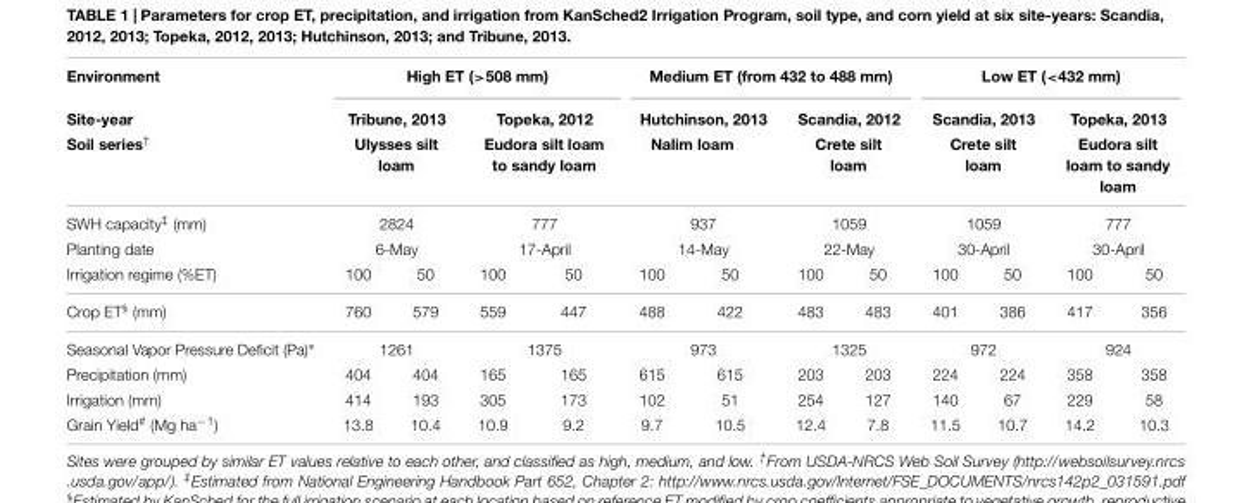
<table><thead><tr><td rowspan="6">Environment Site-year Soil series† SWH capacity‡ (mm) Planting date Irrigation regime (%ET)</td><td colspan="4">High ET (&gt;508 mm)</td><td colspan="4">Medium ET (from 432 to 488 mm)</td><td colspan="4">Low ET (&lt;432 mm)</td></tr><tr><td rowspan="4" colspan="2">Tribune, 2013 Ulysses silt loam 2824 6-May</td><td rowspan="4" colspan="2">Topeka, 2012 Eudora silt loam to sandy loam 777 17-April</td><td rowspan="4" colspan="2">Hutchinson, 2013 Nalim loam 937 14-May</td><td rowspan="4" colspan="2">Scandia, 2012 Crete silt loam 1059 22-May</td><td rowspan="4" colspan="2">Scandia, 2013 Crete silt loam 1059 30-April</td><td rowspan="4" colspan="2">Topeka, 2013 Eudora silt loam to sandy loam 777 30-April</td></tr><tr></tr><tr></tr><tr></tr><tr><td>100</td><td>50</td><td>100</td><td>50</td><td>100</td><td>50</td><td>100</td><td>50</td><td>100</td><td>50</td><td>100</td><td>50</td></tr></thead><tbody><tr><td>Crop ET<sup>§</sup> (mm)</td><td>760</td><td>579</td><td>559</td><td>447</td><td>488</td><td>422</td><td>483</td><td>483</td><td>401</td><td>386</td><td>417</td><td>356</td></tr><tr><td>Seasonal Vapor Pressure Deficit (Pa)∗</td><td colspan="2">1261</td><td colspan="2">1375</td><td colspan="2">973</td><td colspan="2">1325</td><td colspan="2">972</td><td colspan="2">924</td></tr><tr><td>Precipitation (mm)</td><td>404</td><td>404</td><td>165</td><td>165</td><td>615</td><td>615</td><td>203</td><td>203</td><td>224</td><td>224</td><td>358</td><td>358</td></tr><tr><td>Irrigation (mm)</td><td>414</td><td>193</td><td>305</td><td>173</td><td>102</td><td>51</td><td>254</td><td>127</td><td>140</td><td>67</td><td>229</td><td>58</td></tr><tr><td>Grain Yield<sup>#</sup> (Mg ha<sup>−1</sup>)</td><td>13.8</td><td>10.4</td><td>10.9</td><td>9.2</td><td>9.7</td><td>10.5</td><td>12.4</td><td>7.8</td><td>11.5</td><td>10.7</td><td>14.2</td><td>10.3</td></tr></tbody></table>